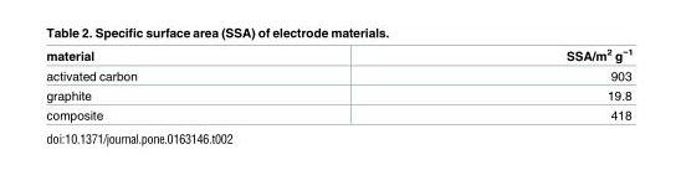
<table><thead><tr><td>material</td><td>SSA/m<sup>2</sup> g<sup>−1</sup></td></tr></thead><tbody><tr><td>activated carbon</td><td>903</td></tr><tr><td>graphite</td><td>19.8</td></tr><tr><td>composite</td><td>418</td></tr></tbody></table>